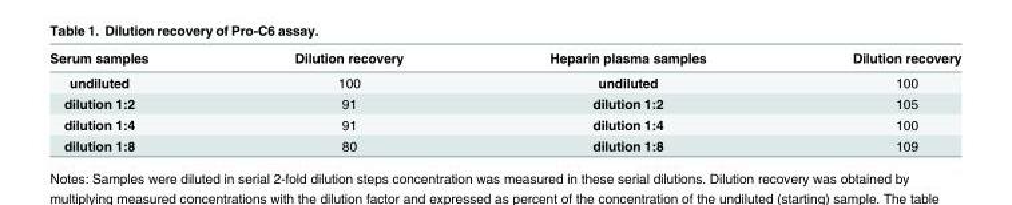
<table><thead><tr><td>Serum samples</td><td>Dilution recovery</td><td>Heparin plasma samples</td><td>Dilution recovery</td></tr></thead><tbody><tr><td>undiluted</td><td>100</td><td>undiluted</td><td>100</td></tr><tr><td>dilution 1:2</td><td>91</td><td>dilution 1:2</td><td>105</td></tr><tr><td>dilution 1:4</td><td>91</td><td>dilution 1:4</td><td>100</td></tr><tr><td>dilution 1:8</td><td>80</td><td>dilution 1:8</td><td>109</td></tr></tbody></table>